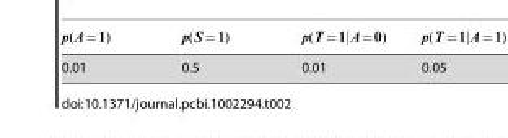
<table><tbody><tr><td>0.01</td><td>0.5</td><td>0.01</td><td>0.05</td></tr></tbody></table>